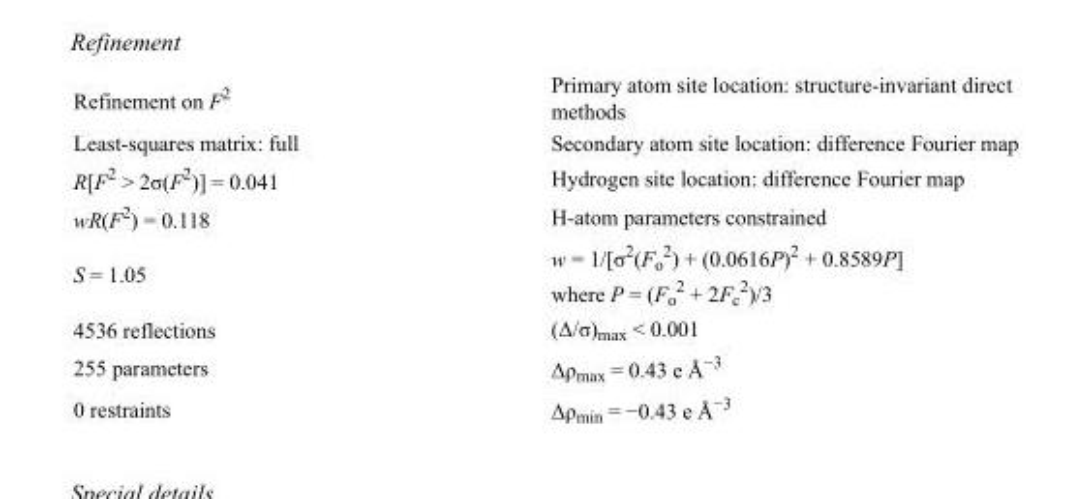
<table><tbody><tr><td>Refinement on F<sup>2</sup></td><td>Primary atom site location: structure-invariant direct methods</td></tr><tr><td>Least-squares matrix: full</td><td>Secondary atom site location: difference Fourier map</td></tr><tr><td>R[F<sup>2</sup> &gt; 2σ(F<sup>2</sup>)] = 0.041</td><td>Hydrogen site location: difference Fourier map</td></tr><tr><td>wR(F<sup>2</sup>) = 0.118</td><td>H-atom parameters constrained</td></tr><tr><td>S = 1.05</td><td>w = 1/[σ<sup>2</sup>(F<sub>o</sub> <sup>2</sup>) + (0.0616P)<sup>2</sup> + 0.8589P] where P = (F<sub>o</sub> <sup>2</sup> + 2F<sub>c</sub> <sup>2</sup>)/3</td></tr><tr><td>4536 reflections</td><td>(Δ/σ)<sub>max</sub> &lt; 0.001</td></tr><tr><td>255 parameters</td><td>Δρ<sub>max</sub> = 0.43 e Å<sup>−3</sup></td></tr><tr><td>0 restraints</td><td>Δρ<sub>min</sub> = −0.43 e Å<sup>−3</sup></td></tr></tbody></table>